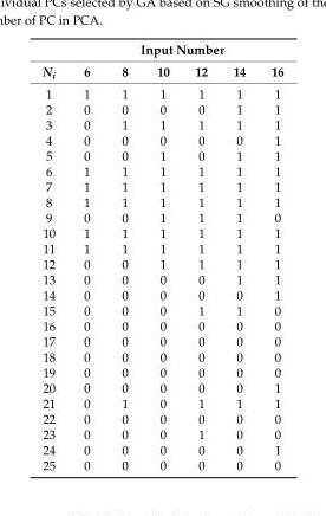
<table><thead><tr><td rowspan="2">N<sub>i</sub></td><td colspan="6">Input Number</td></tr><tr><td>6</td><td>8</td><td>10</td><td>12</td><td>14</td><td>16</td></tr></thead><tbody><tr><td>1</td><td>1</td><td>1</td><td>1</td><td>1</td><td>1</td><td>1</td></tr><tr><td>2</td><td>0</td><td>0</td><td>0</td><td>0</td><td>1</td><td>1</td></tr><tr><td>3</td><td>0</td><td>1</td><td>1</td><td>1</td><td>1</td><td>1</td></tr><tr><td>4</td><td>0</td><td>0</td><td>0</td><td>0</td><td>0</td><td>1</td></tr><tr><td>5</td><td>0</td><td>0</td><td>1</td><td>0</td><td>1</td><td>1</td></tr><tr><td>6</td><td>1</td><td>1</td><td>1</td><td>1</td><td>1</td><td>1</td></tr><tr><td>7</td><td>1</td><td>1</td><td>1</td><td>1</td><td>1</td><td>1</td></tr><tr><td>8</td><td>1</td><td>1</td><td>1</td><td>1</td><td>1</td><td>1</td></tr><tr><td>9</td><td>0</td><td>0</td><td>1</td><td>1</td><td>1</td><td>0</td></tr><tr><td>10</td><td>1</td><td>1</td><td>1</td><td>1</td><td>1</td><td>1</td></tr><tr><td>11</td><td>1</td><td>1</td><td>1</td><td>1</td><td>1</td><td>1</td></tr><tr><td>12</td><td>0</td><td>0</td><td>1</td><td>1</td><td>1</td><td>1</td></tr><tr><td>13</td><td>0</td><td>0</td><td>0</td><td>0</td><td>1</td><td>1</td></tr><tr><td>14</td><td>0</td><td>0</td><td>0</td><td>0</td><td>0</td><td>1</td></tr><tr><td>15</td><td>0</td><td>0</td><td>0</td><td>1</td><td>1</td><td>0</td></tr><tr><td>16</td><td>0</td><td>0</td><td>0</td><td>0</td><td>0</td><td>0</td></tr><tr><td>17</td><td>0</td><td>0</td><td>0</td><td>0</td><td>0</td><td>0</td></tr><tr><td>18</td><td>0</td><td>0</td><td>0</td><td>0</td><td>0</td><td>0</td></tr><tr><td>19</td><td>0</td><td>0</td><td>0</td><td>0</td><td>0</td><td>0</td></tr><tr><td>20</td><td>0</td><td>0</td><td>0</td><td>0</td><td>0</td><td>1</td></tr><tr><td>21</td><td>0</td><td>1</td><td>0</td><td>1</td><td>1</td><td>1</td></tr><tr><td>22</td><td>0</td><td>0</td><td>0</td><td>0</td><td>0</td><td>0</td></tr><tr><td>23</td><td>0</td><td>0</td><td>0</td><td>1</td><td>0</td><td>0</td></tr><tr><td>24</td><td>0</td><td>0</td><td>0</td><td>0</td><td>0</td><td>1</td></tr><tr><td>25</td><td>0</td><td>0</td><td>0</td><td>0</td><td>0</td><td>0</td></tr></tbody></table>